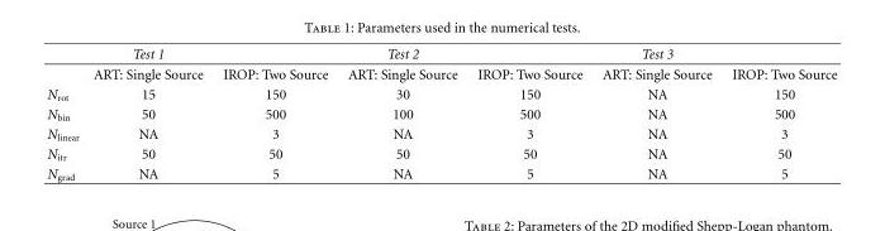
<table><thead><tr><td></td><td>Test 1</td><td></td><td>Test 2</td><td></td><td>Test 3</td><td></td></tr></thead><tbody><tr><td></td><td>ART: Single Source</td><td>IROP: Two Source</td><td>ART: Single Source</td><td>IROP: Two Source</td><td>ART: Single Source</td><td>IROP: Two Source</td></tr><tr><td>N<sub>rot</sub></td><td>15</td><td>150</td><td>30</td><td>150</td><td>NA</td><td>150</td></tr><tr><td>N<sub>bin</sub></td><td>50</td><td>500</td><td>100</td><td>500</td><td>NA</td><td>500</td></tr><tr><td>N<sub>linear</sub></td><td>NA</td><td>3</td><td>NA</td><td>3</td><td>NA</td><td>3</td></tr><tr><td>N<sub>itr</sub></td><td>50</td><td>50</td><td>50</td><td>50</td><td>NA</td><td>50</td></tr><tr><td>N<sub>grad</sub></td><td>NA</td><td>5</td><td>NA</td><td>5</td><td>NA</td><td>5</td></tr></tbody></table>